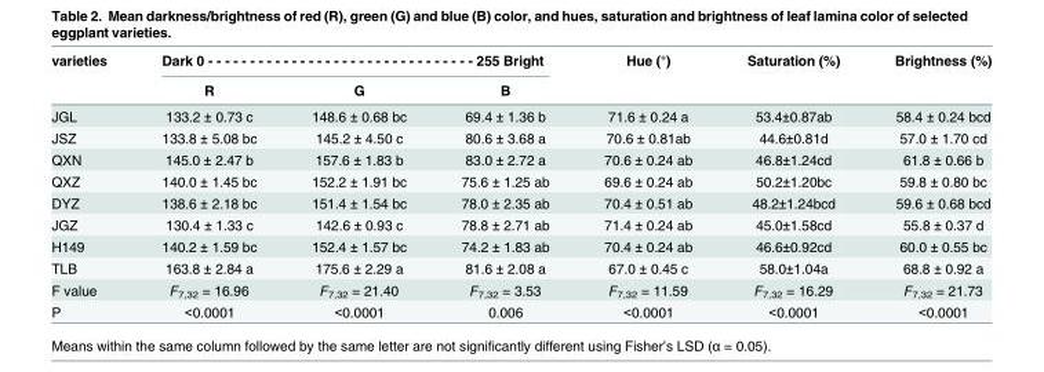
<table><thead><tr><td rowspan="2">varieties</td><td colspan="3">Dark 0 - - - - - - - - - - - - - - - - - - - - - - - - - - - - - - - - 255 Bright</td><td rowspan="2">Hue (°)</td><td rowspan="2">Saturation (%)</td><td rowspan="2">Brightness (%)</td></tr><tr><td>R</td><td>G</td><td>B</td></tr></thead><tbody><tr><td>JGL</td><td>133.2 ± 0.73 c</td><td>148.6 ± 0.68 bc</td><td>69.4 ± 1.36 b</td><td>71.6 ± 0.24 a</td><td>53.4±0.87ab</td><td>58.4 ± 0.24 bcd</td></tr><tr><td>JSZ</td><td>133.8 ± 5.08 bc</td><td>145.2 ± 4.50 c</td><td>80.6 ± 3.68 a</td><td>70.6 ± 0.81ab</td><td>44.6±0.81d</td><td>57.0 ± 1.70 cd</td></tr><tr><td>QXN</td><td>145.0 ± 2.47 b</td><td>157.6 ± 1.83 b</td><td>83.0 ± 2.72 a</td><td>70.6 ± 0.24 ab</td><td>46.8±1.24cd</td><td>61.8 ± 0.66 b</td></tr><tr><td>QXZ</td><td>140.0 ± 1.45 bc</td><td>152.2 ± 1.91 bc</td><td>75.6 ± 1.25 ab</td><td>69.6 ± 0.24 ab</td><td>50.2±1.20bc</td><td>59.8 ± 0.80 bc</td></tr><tr><td>DYZ</td><td>138.6 ± 2.18 bc</td><td>151.4 ± 1.54 bc</td><td>78.0 ± 2.35 ab</td><td>70.4 ± 0.51 ab</td><td>48.2±1.24bcd</td><td>59.6 ± 0.68 bcd</td></tr><tr><td>JGZ</td><td>130.4 ± 1.33 c</td><td>142.6 ± 0.93 c</td><td>78.8 ± 2.71 ab</td><td>71.4 ± 0.24 ab</td><td>45.0±1.58cd</td><td>55.8 ± 0.37 d</td></tr><tr><td>H149</td><td>140.2 ± 1.59 bc</td><td>152.4 ± 1.57 bc</td><td>74.2 ± 1.83 ab</td><td>70.4 ± 0.24 ab</td><td>46.6±0.92cd</td><td>60.0 ± 0.55 bc</td></tr><tr><td>TLB</td><td>163.8 ± 2.84 a</td><td>175.6 ± 2.29 a</td><td>81.6 ± 2.08 a</td><td>67.0 ± 0.45 c</td><td>58.0±1.04a</td><td>68.8 ± 0.92 a</td></tr><tr><td>F value</td><td>F<sub>7,32</sub> = 16.96</td><td>F<sub>7,32</sub> = 21.40</td><td>F<sub>7,32</sub> = 3.53</td><td>F<sub>7,32</sub> = 11.59</td><td>F<sub>7,32</sub> = 16.29</td><td>F<sub>7,32</sub> = 21.73</td></tr><tr><td>P</td><td>&lt;0.0001</td><td>&lt;0.0001</td><td>0.006</td><td>&lt;0.0001</td><td>&lt;0.0001</td><td>&lt;0.0001</td></tr></tbody></table>